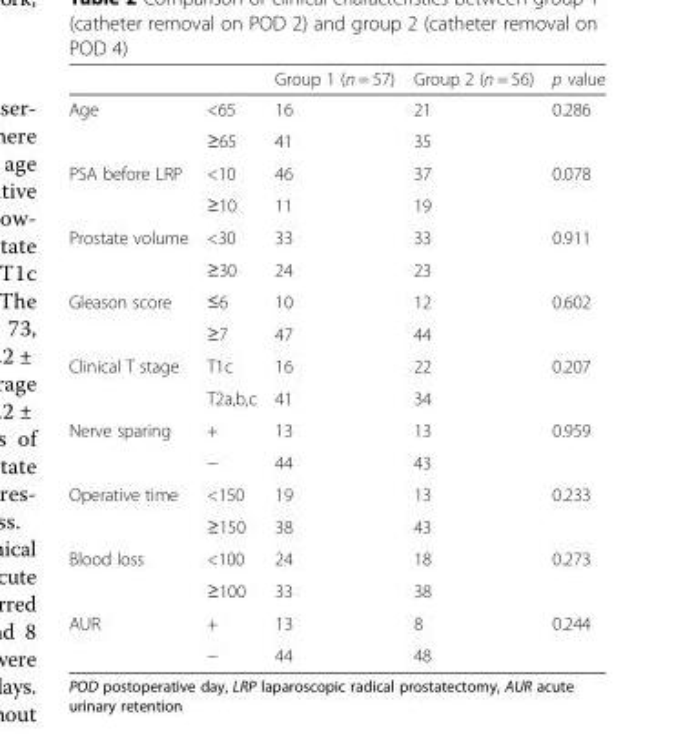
<table><thead><tr><td></td><td></td><td>Group 1 (n = 57)</td><td>Group 2 (n = 56)</td><td>p value</td></tr></thead><tbody><tr><td rowspan="2">Age</td><td>&lt;65</td><td>16</td><td>21</td><td>0.286</td></tr><tr><td>≥65</td><td>41</td><td>35</td><td></td></tr><tr><td rowspan="2">PSA before LRP</td><td>&lt;10</td><td>46</td><td>37</td><td>0.078</td></tr><tr><td>≥10</td><td>11</td><td>19</td><td></td></tr><tr><td rowspan="2">Prostate volume</td><td>&lt;30</td><td>33</td><td>33</td><td>0.911</td></tr><tr><td>≥30</td><td>24</td><td>23</td><td></td></tr><tr><td rowspan="2">Gleason score</td><td>≤6</td><td>10</td><td>12</td><td>0.602</td></tr><tr><td>≥7</td><td>47</td><td>44</td><td></td></tr><tr><td rowspan="2">Clinical T stage</td><td>T1c</td><td>16</td><td>22</td><td>0.207</td></tr><tr><td>T2a,b,c</td><td>41</td><td>34</td><td></td></tr><tr><td rowspan="2">Nerve sparing</td><td>+</td><td>13</td><td>13</td><td>0.959</td></tr><tr><td>−</td><td>44</td><td>43</td><td></td></tr><tr><td rowspan="2">Operative time</td><td>&lt;150</td><td>19</td><td>13</td><td>0.233</td></tr><tr><td>≥150</td><td>38</td><td>43</td><td></td></tr><tr><td rowspan="2">Blood loss</td><td>&lt;100</td><td>24</td><td>18</td><td>0.273</td></tr><tr><td>≥100</td><td>33</td><td>38</td><td></td></tr><tr><td rowspan="2">AUR</td><td>+</td><td>13</td><td>8</td><td>0.244</td></tr><tr><td>−</td><td>44</td><td>48</td><td></td></tr></tbody></table>